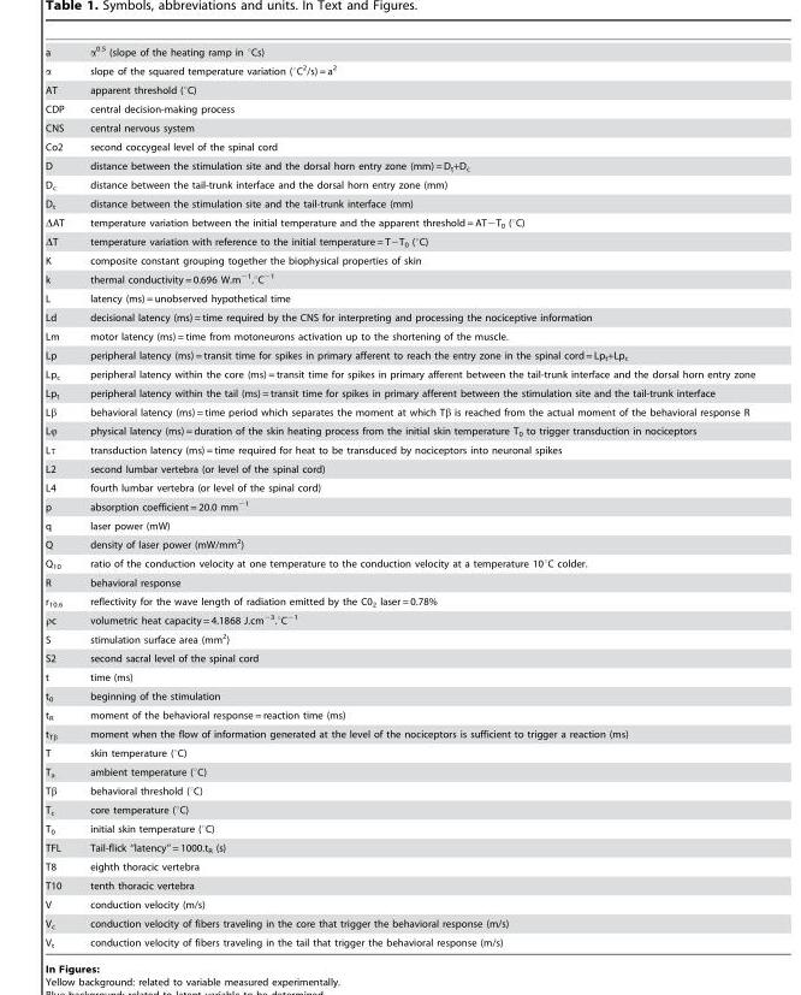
<table><tbody><tr><td>a</td><td>α<sup>0.5</sup> (slope of the heating ramp in °Cs)</td></tr><tr><td>α</td><td>slope of the squared temperature variation (°C<sup>2</sup>/s) = a<sup>2</sup></td></tr><tr><td>AT</td><td>apparent threshold (°C)</td></tr><tr><td>CDP</td><td>central decision-making process</td></tr><tr><td>CNS</td><td>central nervous system</td></tr><tr><td>Co2</td><td>second coccygeal level of the spinal cord</td></tr><tr><td>D</td><td>distance between the stimulation site and the dorsal horn entry zone (mm) = D<sub>t</sub>+D<sub>c</sub></td></tr><tr><td>D<sub>c</sub></td><td>distance between the tail-trunk interface and the dorsal horn entry zone (mm)</td></tr><tr><td>D<sub>t</sub></td><td>distance between the stimulation site and the tail-trunk interface (mm)</td></tr><tr><td>ΔAT</td><td>temperature variation between the initial temperature and the apparent threshold = AT−T<sub>0</sub> (°C)</td></tr><tr><td>ΔT</td><td>temperature variation with reference to the initial temperature = T−T<sub>0</sub> (°C)</td></tr><tr><td>K</td><td>composite constant grouping together the biophysical properties of skin</td></tr><tr><td>k</td><td>thermal conductivity = 0.696 W.m<sup>−1</sup>.°C<sup>−1</sup></td></tr><tr><td>L</td><td>latency (ms) = unobserved hypothetical time</td></tr><tr><td>Ld</td><td>decisional latency (ms) = time required by the CNS for interpreting and processing the nociceptive information</td></tr><tr><td>Lm</td><td>motor latency (ms) = time from motoneurons activation up to the shortening of the muscle.</td></tr><tr><td>Lp</td><td>peripheral latency (ms) = transit time for spikes in primary afferent to reach the entry zone in the spinal cord = Lp<sub>t</sub>+Lp<sub>c</sub></td></tr><tr><td>Lp<sub>c</sub></td><td>peripheral latency within the core (ms) = transit time for spikes in primary afferent between the tail-trunk interface and the dorsal horn entry zone</td></tr><tr><td>Lp<sub>t</sub></td><td>peripheral latency within the tail (ms) = transit time for spikes in primary afferent between the stimulation site and the tail-trunk interface</td></tr><tr><td>Lβ</td><td>behavioral latency (ms) = time period which separates the moment at which Tβ is reached from the actual moment of the behavioral response R</td></tr><tr><td>Lϕ</td><td>physical latency (ms) = duration of the skin heating process from the initial skin temperature T<sub>0</sub> to trigger transduction in nociceptors</td></tr><tr><td>Lτ</td><td>transduction latency (ms) = time required for heat to be transduced by nociceptors into neuronal spikes</td></tr><tr><td>L2</td><td>second lumbar vertebra (or level of the spinal cord)</td></tr><tr><td>L4</td><td>fourth lumbar vertebra (or level of the spinal cord)</td></tr><tr><td>p</td><td>absorption coefficient = 20.0 mm<sup>−1</sup></td></tr><tr><td>q</td><td>laser power (mW)</td></tr><tr><td>Q</td><td>density of laser power (mW/mm<sup>2</sup>)</td></tr><tr><td>Q<sub>10</sub></td><td>ratio of the conduction velocity at one temperature to the conduction velocity at a temperature 10°C colder.</td></tr><tr><td>R</td><td>behavioral response</td></tr><tr><td>r<sub>10.6</sub></td><td>reflectivity for the wave length of radiation emitted by the C0<sub>2</sub> laser = 0.78%</td></tr><tr><td>ρc</td><td>volumetric heat capacity = 4.1868 J.cm<sup>−3</sup>.°C<sup>−1</sup></td></tr><tr><td>S</td><td>stimulation surface area (mm<sup>2</sup>)</td></tr><tr><td>S2</td><td>second sacral level of the spinal cord</td></tr><tr><td>t</td><td>time (ms)</td></tr><tr><td>t<sub>0</sub></td><td>beginning of the stimulation</td></tr><tr><td>t<sub>R</sub></td><td>moment of the behavioral response = reaction time (ms)</td></tr><tr><td>t<sub>Tβ</sub></td><td>moment when the flow of information generated at the level of the nociceptors is sufficient to trigger a reaction (ms)</td></tr><tr><td>T</td><td>skin temperature (°C)</td></tr><tr><td>T<sub>a</sub></td><td>ambient temperature (°C)</td></tr><tr><td>Tβ</td><td>behavioral threshold (°C)</td></tr><tr><td>T<sub>c</sub></td><td>core temperature (°C)</td></tr><tr><td>T<sub>0</sub></td><td>initial skin temperature (°C)</td></tr><tr><td>TFL</td><td>Tail-flick ‘‘latency’’ = 1000.tR (s)</td></tr><tr><td>T8</td><td>eighth thoracic vertebra</td></tr><tr><td>T10</td><td>tenth thoracic vertebra</td></tr><tr><td>V</td><td>conduction velocity (m/s)</td></tr><tr><td>V<sub>c</sub></td><td>conduction velocity of fibers traveling in the core that trigger the behavioral response (m/s)</td></tr><tr><td>V<sub>t</sub></td><td>conduction velocity of fibers traveling in the tail that trigger the behavioral response (m/s)</td></tr></tbody></table>